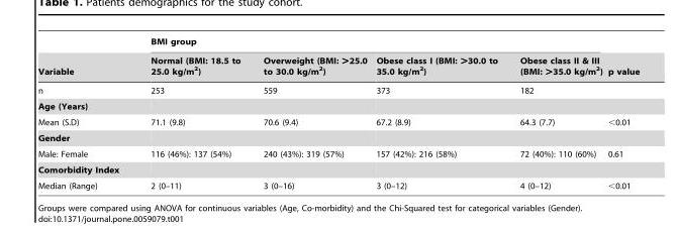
<table><thead><tr><td rowspan="2">Variable</td><td colspan="4">BMI group</td><td rowspan="2">p value</td></tr><tr><td>Normal (BMI: 18.5 to 25.0 kg/m<sup>2</sup>)</td><td>Overweight (BMI: &gt;25.0 to 30.0 kg/m<sup>2</sup>)</td><td>Obese class I (BMI: &gt;30.0 to 35.0 kg/m<sup>2</sup>)</td><td>Obese class II &amp; III (BMI: &gt;35.0 kg/m<sup>2</sup>)</td></tr></thead><tbody><tr><td>n</td><td>253</td><td>559</td><td>373</td><td>182</td><td></td></tr><tr><td colspan="6">Age (Years)</td></tr><tr><td>Mean (S.D)</td><td>71.1 (9.8)</td><td>70.6 (9.4)</td><td>67.2 (8.9)</td><td>64.3 (7.7)</td><td>&lt;0.01</td></tr><tr><td colspan="6">Gender</td></tr><tr><td>Male: Female</td><td>116 (46%): 137 (54%)</td><td>240 (43%): 319 (57%)</td><td>157 (42%): 216 (58%)</td><td>72 (40%): 110 (60%)</td><td>0.61</td></tr><tr><td colspan="6">Comorbidity Index</td></tr><tr><td>Median (Range)</td><td>2 (0–11)</td><td>3 (0–16)</td><td>3 (0–12)</td><td>4 (0–12)</td><td>&lt;0.01</td></tr></tbody></table>